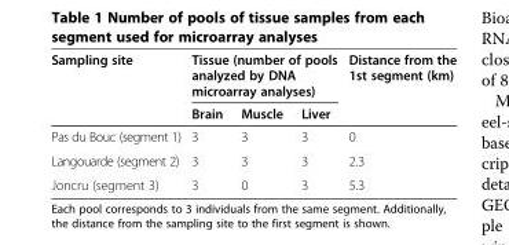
<table><thead><tr><td rowspan="2">Sampling site</td><td colspan="3">Tissue (number of pools analyzed by DNA microarray analyses)</td><td rowspan="2">Distance from the 1st segment (km)</td></tr><tr><td>Brain</td><td>Muscle</td><td>Liver</td></tr></thead><tbody><tr><td>Pas du Bouc (segment 1)</td><td>3</td><td>3</td><td>3</td><td>0</td></tr><tr><td>Langouarde (segment 2)</td><td>3</td><td>3</td><td>3</td><td>2.3</td></tr><tr><td>Joncru (segment 3)</td><td>3</td><td>0</td><td>3</td><td>5.3</td></tr></tbody></table>